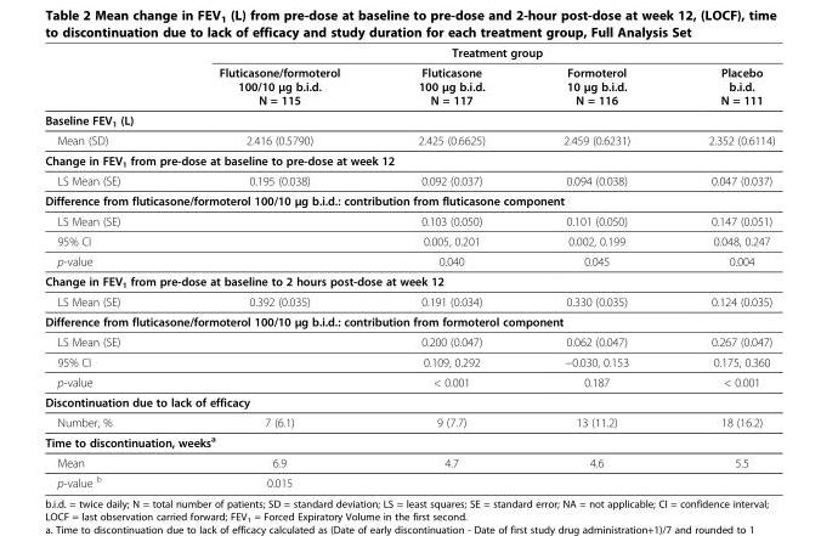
<table><thead><tr><td rowspan="2"></td><td colspan="4">Treatment group</td></tr><tr><td>Fluticasone/formoterol 100/10 μg b.i.d. N = 115</td><td>Fluticasone 100 μg b.i.d. N = 117</td><td>Formoterol 10 μg b.i.d. N = 116</td><td>Placebo b.i.d. N = 111</td></tr></thead><tbody><tr><td colspan="5">Baseline FEV<sub>1</sub> (L)</td></tr><tr><td>Mean (SD)</td><td>2.416 (0.5790)</td><td>2.425 (0.6625)</td><td>2.459 (0.6231)</td><td>2.352 (0.6114)</td></tr><tr><td colspan="5">Change in FEV<sub>1</sub> from pre-dose at baseline to pre-dose at week 12</td></tr><tr><td>LS Mean (SE)</td><td>0.195 (0.038)</td><td>0.092 (0.037)</td><td>0.094 (0.038)</td><td>0.047 (0.037)</td></tr><tr><td colspan="5">Difference from fluticasone/formoterol 100/10 μg b.i.d.: contribution from fluticasone component</td></tr><tr><td>LS Mean (SE)</td><td></td><td>0.103 (0.050)</td><td>0.101 (0.050)</td><td>0.147 (0.051)</td></tr><tr><td>95% CI</td><td></td><td>0.005, 0.201</td><td>0.002, 0.199</td><td>0.048, 0.247</td></tr><tr><td>p-value</td><td></td><td>0.040</td><td>0.045</td><td>0.004</td></tr><tr><td colspan="5">Change in FEV<sub>1</sub> from pre-dose at baseline to 2 hours post-dose at week 12</td></tr><tr><td>LS Mean (SE)</td><td>0.392 (0.035)</td><td>0.191 (0.034)</td><td>0.330 (0.035)</td><td>0.124 (0.035)</td></tr><tr><td colspan="5">Difference from fluticasone/formoterol 100/10 μg b.i.d.: contribution from formoterol component</td></tr><tr><td>LS Mean (SE)</td><td></td><td>0.200 (0.047)</td><td>0.062 (0.047)</td><td>0.267 (0.047)</td></tr><tr><td>95% CI</td><td></td><td>0.109, 0.292</td><td>−0.030, 0.153</td><td>0.175, 0.360</td></tr><tr><td>p-value</td><td></td><td>&lt; 0.001</td><td>0.187</td><td>&lt; 0.001</td></tr><tr><td colspan="5">Discontinuation due to lack of efficacy</td></tr><tr><td>Number, %</td><td>7 (6.1)</td><td>9 (7.7)</td><td>13 (11.2)</td><td>18 (16.2)</td></tr><tr><td colspan="5">Time to discontinuation, weeks<sup>a</sup></td></tr><tr><td>Mean</td><td>6.9</td><td>4.7</td><td>4.6</td><td>5.5</td></tr><tr><td>p-value <sup>b</sup></td><td>0.015</td><td></td><td></td><td></td></tr></tbody></table>